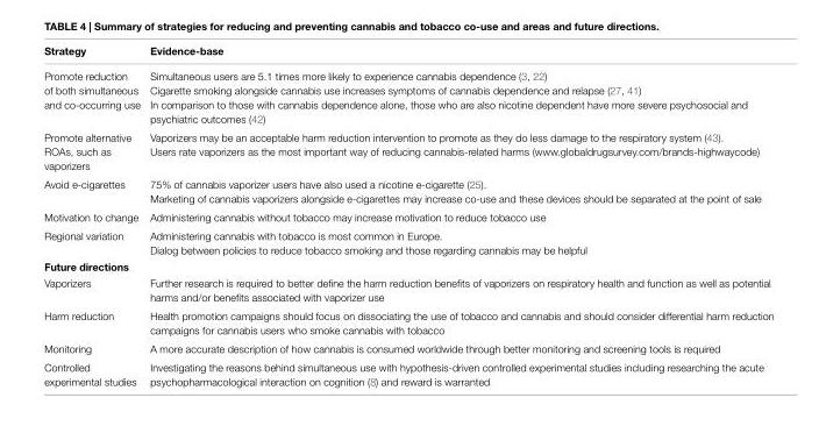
<table><thead><tr><td>strategy</td><td>evidence-base</td></tr></thead><tbody><tr><td>Promote reduction of both simultaneous and co-occurring use</td><td>Simultaneous users are 5.1 times more likely to experience cannabis dependence (3, 22) Cigarette smoking alongside cannabis use increases symptoms of cannabis dependence and relapse (27, 41) In comparison to those with cannabis dependence alone, those who are also nicotine dependent have more severe psychosocial and psychiatric outcomes (42)</td></tr><tr><td>Promote alternative ROAs, such as vaporizers</td><td>Vaporizers may be an acceptable harm reduction intervention to promote as they do less damage to the respiratory system (43). Users rate vaporizers as the most important way of reducing cannabis-related harms (www.globaldrugsurvey.com/brands-highwaycode)</td></tr><tr><td>Avoid e-cigarettes</td><td>75% of cannabis vaporizer users have also used a nicotine e-cigarette (25). Marketing of cannabis vaporizers alongside e-cigarettes may increase co-use and these devices should be separated at the point of sale</td></tr><tr><td>Motivation to change</td><td>Administering cannabis without tobacco may increase motivation to reduce tobacco use</td></tr><tr><td>Regional variation</td><td>Administering cannabis with tobacco is most common in Europe. Dialog between policies to reduce tobacco smoking and those regarding cannabis may be helpful</td></tr><tr><td colspan="2">Future directions</td></tr><tr><td>Vaporizers</td><td>Further research is required to better define the harm reduction benefits of vaporizers on respiratory health and function as well as potential harms and/or benefits associated with vaporizer use</td></tr><tr><td>Harm reduction</td><td>Health promotion campaigns should focus on dissociating the use of tobacco and cannabis and should consider differential harm reduction campaigns for cannabis users who smoke cannabis with tobacco</td></tr><tr><td>Monitoring</td><td>A more accurate description of how cannabis is consumed worldwide through better monitoring and screening tools is required</td></tr><tr><td>Controlled experimental studies</td><td>Investigating the reasons behind simultaneous use with hypothesis-driven controlled experimental studies including researching the acute psychopharmacological interaction on cognition (8) and reward is warranted</td></tr></tbody></table>